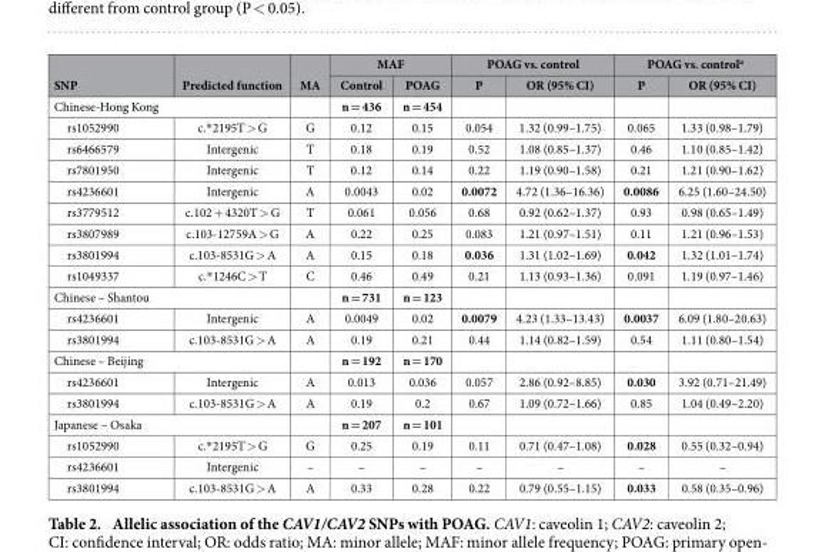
<table><thead><tr><td rowspan="2">SNP</td><td rowspan="2">Predicted function</td><td rowspan="2">MA</td><td colspan="2">MAF</td><td colspan="2">POAG vs. control</td><td colspan="2">POAG vs. control<sup>a</sup></td></tr><tr><td>Control</td><td>POAG</td><td>P</td><td>OR (95% CI)</td><td>P</td><td>OR (95% CI)</td></tr></thead><tbody><tr><td colspan="2">Chinese-Hong Kong</td><td></td><td>n = 436</td><td>n = 454</td><td></td><td></td><td></td><td></td></tr><tr><td>rs1052990</td><td>c.* 2195T &gt; G</td><td>G</td><td>0.12</td><td>0.15</td><td>0.054</td><td>1.32 (0.99–1.75)</td><td>0.065</td><td>1.33 (0.98–1.79)</td></tr><tr><td>rs6466579</td><td>Intergenic</td><td>T</td><td>0.18</td><td>0.19</td><td>0.52</td><td>1.08 (0.85–1.37)</td><td>0.46</td><td>1.10 (0.85–1.42)</td></tr><tr><td>rs7801950</td><td>Intergenic</td><td>T</td><td>0.12</td><td>0.14</td><td>0.22</td><td>1.19 (0.90–1.58)</td><td>0.21</td><td>1.21 (0.90–1.62)</td></tr><tr><td>rs4236601</td><td>Intergenic</td><td>A</td><td>0.0043</td><td>0.02</td><td>0.0072</td><td>4.72 (1.36–16.36)</td><td>0.0086</td><td>6.25 (1.60–24.50)</td></tr><tr><td>rs3779512</td><td>c.102 + 4320T &gt; G</td><td>T</td><td>0.061</td><td>0.056</td><td>0.68</td><td>0.92 (0.62–1.37)</td><td>0.93</td><td>0.98 (0.65–1.49)</td></tr><tr><td>rs3807989</td><td>c.103-12759A &gt; G</td><td>A</td><td>0.22</td><td>0.25</td><td>0.083</td><td>1.21 (0.97–1.51)</td><td>0.11</td><td>1.21 (0.96–1.53)</td></tr><tr><td>rs3801994</td><td>c.103-8531G &gt; A</td><td>A</td><td>0.15</td><td>0.18</td><td>0.036</td><td>1.31 (1.02–1.69)</td><td>0.042</td><td>1.32 (1.01–1.74)</td></tr><tr><td>rs1049337</td><td>c.* 1246C &gt; T</td><td>C</td><td>0.46</td><td>0.49</td><td>0.21</td><td>1.13 (0.93–1.36)</td><td>0.091</td><td>1.19 (0.97–1.46)</td></tr><tr><td colspan="2">Chinese – Shantou</td><td></td><td>n = 731</td><td>n = 123</td><td></td><td></td><td></td><td></td></tr><tr><td>rs4236601</td><td>Intergenic</td><td>A</td><td>0.0049</td><td>0.02</td><td>0.0079</td><td>4.23 (1.33–13.43)</td><td>0.0037</td><td>6.09 (1.80–20.63)</td></tr><tr><td>rs3801994</td><td>c.103-8531G &gt; A</td><td>A</td><td>0.19</td><td>0.21</td><td>0.44</td><td>1.14 (0.82–1.59)</td><td>0.54</td><td>1.11 (0.80–1.54)</td></tr><tr><td colspan="2">Chinese – Beijing</td><td></td><td>n = 192</td><td>n = 170</td><td></td><td></td><td></td><td></td></tr><tr><td>rs4236601</td><td>Intergenic</td><td>A</td><td>0.013</td><td>0.036</td><td>0.057</td><td>2.86 (0.92–8.85)</td><td>0.030</td><td>3.92 (0.71–21.49)</td></tr><tr><td>rs3801994</td><td>c.103-8531G &gt; A</td><td>A</td><td>0.19</td><td>0.2</td><td>0.67</td><td>1.09 (0.72–1.66)</td><td>0.85</td><td>1.04 (0.49–2.20)</td></tr><tr><td colspan="2">Japanese – Osaka</td><td></td><td>n = 207</td><td>n = 101</td><td></td><td></td><td></td><td></td></tr><tr><td>rs1052990</td><td>c.* 2195T &gt; G</td><td>G</td><td>0.25</td><td>0.19</td><td>0.11</td><td>0.71 (0.47–1.08)</td><td>0.028</td><td>0.55 (0.32–0.94)</td></tr><tr><td>rs4236601</td><td>Intergenic</td><td>–</td><td>–</td><td>–</td><td>–</td><td>–</td><td>–</td><td>–</td></tr><tr><td>rs3801994</td><td>c.103-8531G &gt; A</td><td>A</td><td>0.33</td><td>0.28</td><td>0.22</td><td>0.79 (0.55–1.15)</td><td>0.033</td><td>0.58 (0.35–0.96)</td></tr></tbody></table>